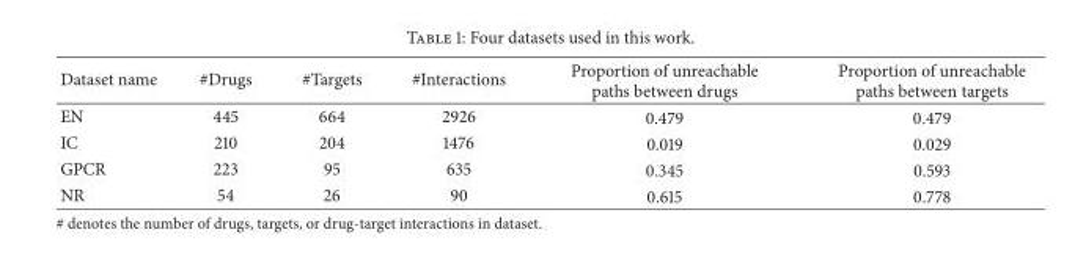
<table><thead><tr><td>Dataset name</td><td>#Drugs</td><td>#Targets</td><td>#Interactions</td><td>Proportion of unreachable paths between drugs</td><td>Proportion of unreachable paths between targets</td></tr></thead><tbody><tr><td>EN</td><td>445</td><td>664</td><td>2926</td><td>0.479</td><td>0.479</td></tr><tr><td>IC</td><td>210</td><td>204</td><td>1476</td><td>0.019</td><td>0.029</td></tr><tr><td>GPCR</td><td>223</td><td>95</td><td>635</td><td>0.345</td><td>0.593</td></tr><tr><td>NR</td><td>54</td><td>26</td><td>90</td><td>0.615</td><td>0.778</td></tr></tbody></table>